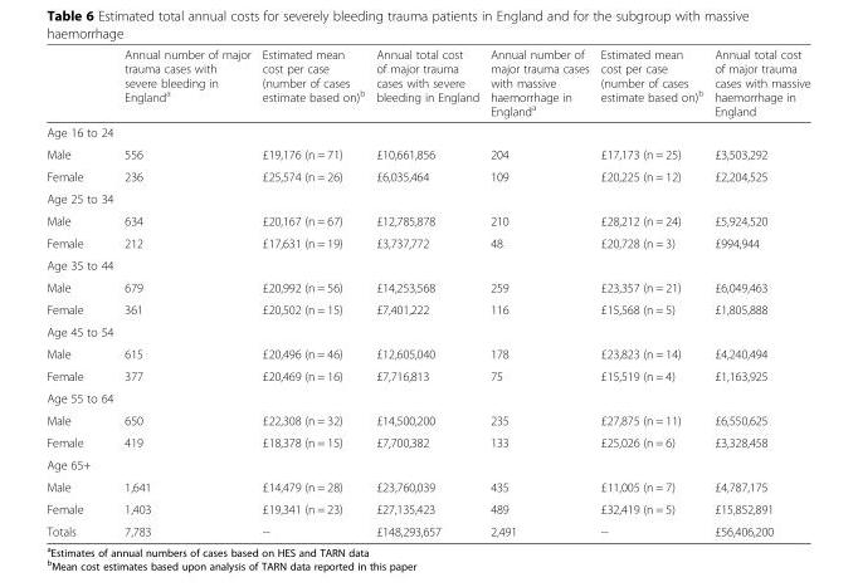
<table><thead><tr><td></td><td>Annual number of major trauma cases with severe bleeding in England<sup>a</sup></td><td>Estimated mean cost per case (number of cases estimate based on)<sup>b</sup></td><td>Annual total cost of major trauma cases with severe bleeding in England</td><td>Annual number of major trauma cases with massive haemorrhage in England<sup>a</sup></td><td>Estimated mean cost per case (number of cases estimate based on)<sup>b</sup></td><td>Annual total cost of major trauma cases with massive haemorrhage in England</td></tr></thead><tbody><tr><td colspan="7">Age 16 to 24</td></tr><tr><td>Male</td><td>556</td><td>£19,176 (n = 71)</td><td>£10,661,856</td><td>204</td><td>£17,173 (n = 25)</td><td>£3,503,292</td></tr><tr><td>Female</td><td>236</td><td>£25,574 (n = 26)</td><td>£6,035,464</td><td>109</td><td>£20,225 (n = 12)</td><td>£2,204,525</td></tr><tr><td colspan="7">Age 25 to 34</td></tr><tr><td>Male</td><td>634</td><td>£20,167 (n = 67)</td><td>£12,785,878</td><td>210</td><td>£28,212 (n = 24)</td><td>£5,924,520</td></tr><tr><td>Female</td><td>212</td><td>£17,631 (n = 19)</td><td>£3,737,772</td><td>48</td><td>£20,728 (n = 3)</td><td>£994,944</td></tr><tr><td colspan="7">Age 35 to 44</td></tr><tr><td>Male</td><td>679</td><td>£20,992 (n = 56)</td><td>£14,253,568</td><td>259</td><td>£23,357 (n = 21)</td><td>£6,049,463</td></tr><tr><td>Female</td><td>361</td><td>£20,502 (n = 15)</td><td>£7,401,222</td><td>116</td><td>£15,568 (n = 5)</td><td>£1,805,888</td></tr><tr><td colspan="7">Age 45 to 54</td></tr><tr><td>Male</td><td>615</td><td>£20,496 (n = 46)</td><td>£12,605,040</td><td>178</td><td>£23,823 (n = 14)</td><td>£4,240,494</td></tr><tr><td>Female</td><td>377</td><td>£20,469 (n = 16)</td><td>£7,716,813</td><td>75</td><td>£15,519 (n = 4)</td><td>£1,163,925</td></tr><tr><td colspan="7">Age 55 to 64</td></tr><tr><td>Male</td><td>650</td><td>£22,308 (n = 32)</td><td>£14,500,200</td><td>235</td><td>£27,875 (n = 11)</td><td>£6,550,625</td></tr><tr><td>Female</td><td>419</td><td>£18,378 (n = 15)</td><td>£7,700,382</td><td>133</td><td>£25,026 (n = 6)</td><td>£3,328,458</td></tr><tr><td colspan="7">Age 65+</td></tr><tr><td>Male</td><td>1,641</td><td>£14,479 (n = 28)</td><td>£23,760,039</td><td>435</td><td>£11,005 (n = 7)</td><td>£4,787,175</td></tr><tr><td>Female</td><td>1,403</td><td>£19,341 (n = 23)</td><td>£27,135,423</td><td>489</td><td>£32,419 (n = 5)</td><td>£15,852,891</td></tr><tr><td>Totals</td><td>7,783</td><td>--</td><td>£148,293,657</td><td>2,491</td><td>--</td><td>£56,406,200</td></tr></tbody></table>